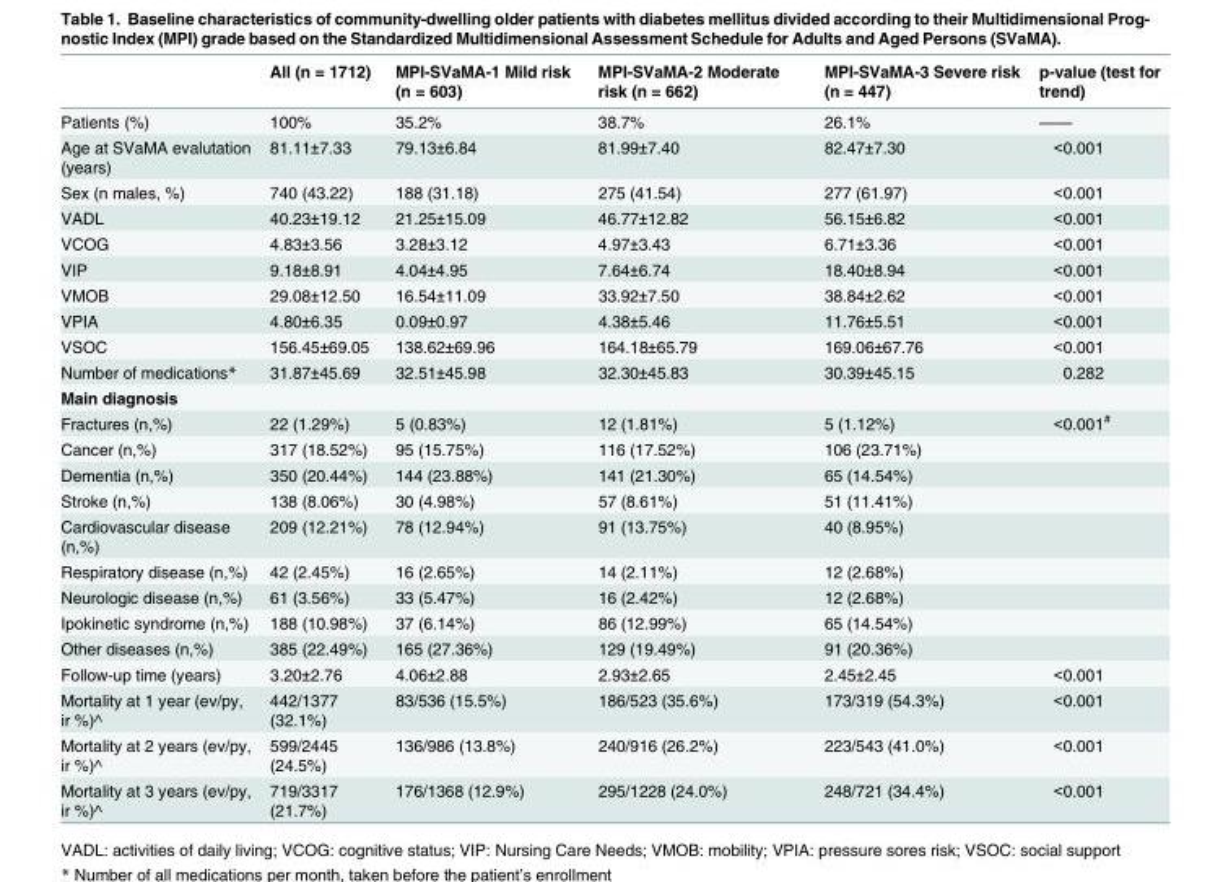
<table><thead><tr><td></td><td>All (n = 1712)</td><td>MPI-SVaMA-1 Mild risk (n = 603)</td><td>MPI-SVaMA-2 Moderate risk (n = 662)</td><td>MPI-SVaMA-3 Severe risk (n = 447)</td><td>p-value (test for trend)</td></tr></thead><tbody><tr><td>Patients (%)</td><td>100%</td><td>35.2%</td><td>38.7%</td><td>26.1%</td><td>——</td></tr><tr><td>Age at SVaMA evalutation (years)</td><td>81.11±7.33</td><td>79.13±6.84</td><td>81.99±7.40</td><td>82.47±7.30</td><td>&lt;0.001</td></tr><tr><td>Sex (n males, %)</td><td>740 (43.22)</td><td>188 (31.18)</td><td>275 (41.54)</td><td>277 (61.97)</td><td>&lt;0.001</td></tr><tr><td>VADL</td><td>40.23±19.12</td><td>21.25±15.09</td><td>46.77±12.82</td><td>56.15±6.82</td><td>&lt;0.001</td></tr><tr><td>VCOG</td><td>4.83±3.56</td><td>3.28±3.12</td><td>4.97±3.43</td><td>6.71±3.36</td><td>&lt;0.001</td></tr><tr><td>VIP</td><td>9.18±8.91</td><td>4.04±4.95</td><td>7.64±6.74</td><td>18.40±8.94</td><td>&lt;0.001</td></tr><tr><td>VMOB</td><td>29.08±12.50</td><td>16.54±11.09</td><td>33.92±7.50</td><td>38.84±2.62</td><td>&lt;0.001</td></tr><tr><td>VPIA</td><td>4.80±6.35</td><td>0.09±0.97</td><td>4.38±5.46</td><td>11.76±5.51</td><td>&lt;0.001</td></tr><tr><td>VSOC</td><td>156.45±69.05</td><td>138.62±69.96</td><td>164.18±65.79</td><td>169.06±67.76</td><td>&lt;0.001</td></tr><tr><td>Number of medications*</td><td>31.87±45.69</td><td>32.51±45.98</td><td>32.30±45.83</td><td>30.39±45.15</td><td>0.282</td></tr><tr><td colspan="6">Main diagnosis</td></tr><tr><td>Fractures (n,%)</td><td>22 (1.29%)</td><td>5 (0.83%)</td><td>12 (1.81%)</td><td>5 (1.12%)</td><td>&lt;0.001<sup>#</sup></td></tr><tr><td>Cancer (n,%)</td><td>317 (18.52%)</td><td>95 (15.75%)</td><td>116 (17.52%)</td><td>106 (23.71%)</td><td></td></tr><tr><td>Dementia (n,%)</td><td>350 (20.44%)</td><td>144 (23.88%)</td><td>141 (21.30%)</td><td>65 (14.54%)</td><td></td></tr><tr><td>Stroke (n,%)</td><td>138 (8.06%)</td><td>30 (4.98%)</td><td>57 (8.61%)</td><td>51 (11.41%)</td><td></td></tr><tr><td>Cardiovascular disease (n,%)</td><td>209 (12.21%)</td><td>78 (12.94%)</td><td>91 (13.75%)</td><td>40 (8.95%)</td><td></td></tr><tr><td>Respiratory disease (n,%)</td><td>42 (2.45%)</td><td>16 (2.65%)</td><td>14 (2.11%)</td><td>12 (2.68%)</td><td></td></tr><tr><td>Neurologic disease (n,%)</td><td>61 (3.56%)</td><td>33 (5.47%)</td><td>16 (2.42%)</td><td>12 (2.68%)</td><td></td></tr><tr><td>Ipokinetic syndrome (n,%)</td><td>188 (10.98%)</td><td>37 (6.14%)</td><td>86 (12.99%)</td><td>65 (14.54%)</td><td></td></tr><tr><td>Other diseases (n,%)</td><td>385 (22.49%)</td><td>165 (27.36%)</td><td>129 (19.49%)</td><td>91 (20.36%)</td><td></td></tr><tr><td>Follow-up time (years)</td><td>3.20±2.76</td><td>4.06±2.88</td><td>2.93±2.65</td><td>2.45±2.45</td><td>&lt;0.001</td></tr><tr><td>Mortality at 1 year (ev/py, ir %)^</td><td>442/1377 (32.1%)</td><td>83/536 (15.5%)</td><td>186/523 (35.6%)</td><td>173/319 (54.3%)</td><td>&lt;0.001</td></tr><tr><td>Mortality at 2 years (ev/py, ir %)^</td><td>599/2445 (24.5%)</td><td>136/986 (13.8%)</td><td>240/916 (26.2%)</td><td>223/543 (41.0%)</td><td>&lt;0.001</td></tr><tr><td>Mortality at 3 years (ev/py, ir %)^</td><td>719/3317 (21.7%)</td><td>176/1368 (12.9%)</td><td>295/1228 (24.0%)</td><td>248/721 (34.4%)</td><td>&lt;0.001</td></tr></tbody></table>